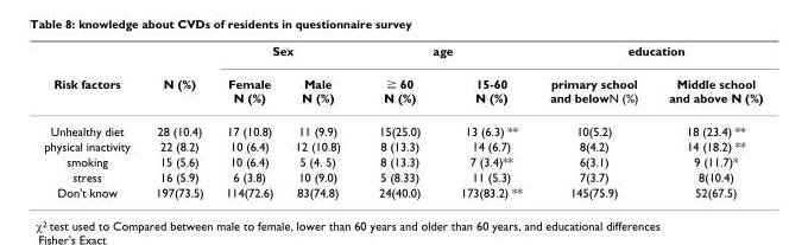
<table><thead><tr><td rowspan="2">Risk factors</td><td rowspan="2">N (%)</td><td colspan="2">Sex</td><td colspan="2">age</td><td colspan="2">education</td></tr><tr><td>Female N (%)</td><td>Male N (%)</td><td>≧ 60 N (%)</td><td>15-60 N (%)</td><td>primary school and belowN (%)</td><td>Middle school and above N (%)</td></tr></thead><tbody><tr><td>Unhealthy diet</td><td>28 (10.4)</td><td>17 (10.8)</td><td>11 (9.9)</td><td>15(25.0)</td><td>13 (6.3) **</td><td>10(5.2)</td><td>18 (23.4) **</td></tr><tr><td>physical inactivity</td><td>22 (8.2)</td><td>10 (6.4)</td><td>12 (10.8)</td><td>8 (13.3)</td><td>14 (6.7)</td><td>8(4.2)</td><td>14 (18.2) **</td></tr><tr><td>smoking</td><td>15 (5.6)</td><td>10 (6.4)</td><td>5 (4. 5)</td><td>8 (13.3)</td><td>7 (3.4)**</td><td>6(3.1)</td><td>9 (11.7)*</td></tr><tr><td>stress</td><td>16 (5.9)</td><td>6 (3.8)</td><td>10 (9.0)</td><td>5 (8.33)</td><td>11 (5.3)</td><td>7(3.7)</td><td>8(10.4)</td></tr><tr><td>Don&#x27;t know</td><td>197(73.5)</td><td>114(72.6)</td><td>83(74.8)</td><td>24(40.0)</td><td>173(83.2) **</td><td>145(75.9)</td><td>52(67.5)</td></tr></tbody></table>